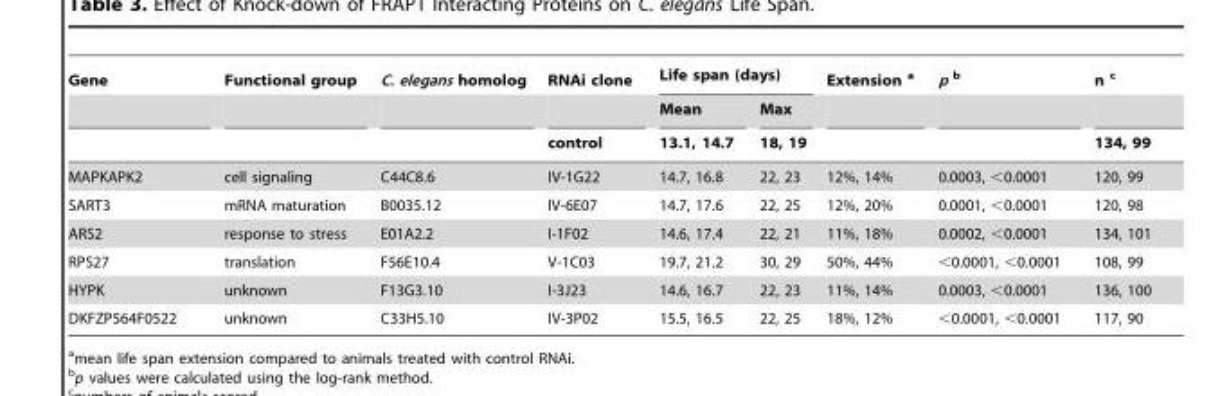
<table><thead><tr><td rowspan="3">Gene</td><td rowspan="3">Functional group</td><td rowspan="3">C. elegans homolog</td><td rowspan="3">RNAi clone control</td><td colspan="2">Life span (days)</td><td rowspan="3">Extension a</td><td rowspan="3">p b</td><td rowspan="3">n c 134, 99</td></tr><tr><td rowspan="2">Mean 13.1, 14.7</td><td rowspan="2">Max 18, 19</td></tr><tr></tr></thead><tbody><tr><td>MAPKAPK2</td><td>cell signaling</td><td>C44C8.6</td><td>IV-1G22</td><td>14.7, 16.8</td><td>22, 23</td><td>12%, 14%</td><td>0.0003, &lt;0.0001</td><td>120, 99</td></tr><tr><td>SART3</td><td>mRNA maturation</td><td>B0035.12</td><td>IV-6E07</td><td>14.7, 17.6</td><td>22, 25</td><td>12%, 20%</td><td>0.0001, &lt;0.0001</td><td>120, 98</td></tr><tr><td>ARS2</td><td>response to stress</td><td>E01A2.2</td><td>I-1F02</td><td>14.6, 17.4</td><td>22, 21</td><td>11%, 18%</td><td>0.0002, &lt;0.0001</td><td>134, 101</td></tr><tr><td>RPS27</td><td>translation</td><td>F56E10.4</td><td>V-1C03</td><td>19.7, 21.2</td><td>30, 29</td><td>50%, 44%</td><td>&lt;0.0001, &lt;0.0001</td><td>108, 99</td></tr><tr><td>HYPK</td><td>unknown</td><td>F13G3.10</td><td>I-3J23</td><td>14.6, 16.7</td><td>22, 23</td><td>11%, 14%</td><td>0.0003, &lt;0.0001</td><td>136, 100</td></tr><tr><td>DKFZP564F0522</td><td>unknown</td><td>C33H5.10</td><td>IV-3P02</td><td>15.5, 16.5</td><td>22, 25</td><td>18%, 12%</td><td>&lt;0.0001, &lt;0.0001</td><td>117, 90</td></tr></tbody></table>